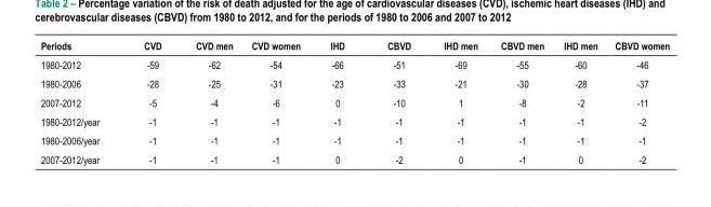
<table><thead><tr><td>Periods</td><td>CVD</td><td>CVD men</td><td>CVD women</td><td>IHD</td><td>CBVD</td><td>IHD men</td><td>CBVD men</td><td>IHD men</td><td>CBVD women</td></tr></thead><tbody><tr><td>1980-2012</td><td>-59</td><td>-62</td><td>-54</td><td>-66</td><td>-51</td><td>-69</td><td>-55</td><td>-60</td><td>-46</td></tr><tr><td>1980-2006</td><td>-28</td><td>-25</td><td>-31</td><td>-23</td><td>-33</td><td>-21</td><td>-30</td><td>-28</td><td>-37</td></tr><tr><td>2007-2012</td><td>-5</td><td>-4</td><td>-6</td><td>0</td><td>-10</td><td>1</td><td>-8</td><td>-2</td><td>-11</td></tr><tr><td>1980-2012/year</td><td>-1</td><td>-1</td><td>-1</td><td>-1</td><td>-1</td><td>-1</td><td>-1</td><td>-1</td><td>-2</td></tr><tr><td>1980-2006/year</td><td>-1</td><td>-1</td><td>-1</td><td>-1</td><td>-1</td><td>-1</td><td>-1</td><td>-1</td><td>-1</td></tr><tr><td>2007-2012/year</td><td>-1</td><td>-1</td><td>-1</td><td>0</td><td>-2</td><td>0</td><td>-1</td><td>0</td><td>-2</td></tr></tbody></table>